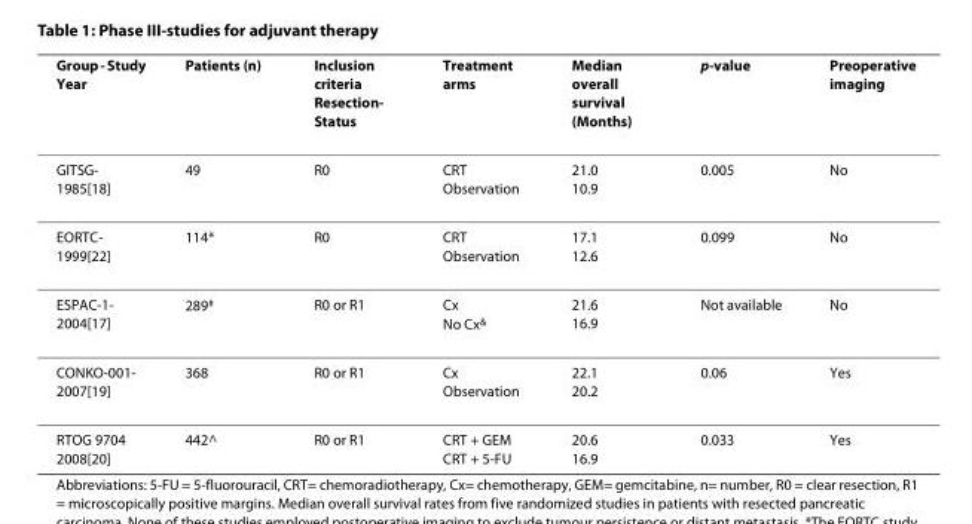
<table><thead><tr><td>Group - Study Year</td><td>Patients (n)</td><td>Inclusion criteria Resection- Status</td><td>Treatment arms</td><td>Median overall survival (Months)</td><td>p-value</td><td>Preoperative imaging</td></tr></thead><tbody><tr><td>GITSG- 1985[18]</td><td>49</td><td>R0</td><td>CRT Observation</td><td>21.0 10.9</td><td>0.005</td><td>No</td></tr><tr><td>EORTC- 1999[22]</td><td>114*</td><td>R0</td><td>CRT Observation</td><td>17.1 12.6</td><td>0.099</td><td>No</td></tr><tr><td>ESPAC-1- 2004[17]</td><td>289<sup>#</sup></td><td>R0 or R1</td><td>Cx No Cx<sup>&amp;</sup></td><td>21.6 16.9</td><td>Not available</td><td>No</td></tr><tr><td>CONKO-001- 2007[19]</td><td>368</td><td>R0 or R1</td><td>Cx Observation</td><td>22.1 20.2</td><td>0.06</td><td>Yes</td></tr><tr><td>RTOG 9704 2008[20]</td><td>442^</td><td>R0 or R1</td><td>CRT + GEM CRT + 5-FU</td><td>20.6 16.9</td><td>0.033</td><td>Yes</td></tr></tbody></table>